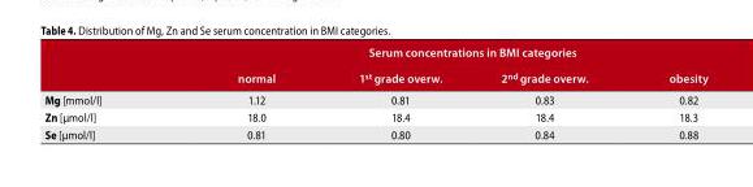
<table><thead><tr><td rowspan="2"></td><td colspan="4">Serum concentrations in bMi categories</td></tr><tr><td>normal</td><td>1<sup>st</sup> grade overw.</td><td>2<sup>nd</sup> grade overw.</td><td>obesity</td></tr></thead><tbody><tr><td>Mg [mmol/l]</td><td>1.12</td><td>0.81</td><td>0.83</td><td>0.82</td></tr><tr><td>Zn [µmol/l]</td><td>18.0</td><td>18.4</td><td>18.4</td><td>18.3</td></tr><tr><td>Se [µmol/l]</td><td>0.81</td><td>0.80</td><td>0.84</td><td>0.88</td></tr></tbody></table>